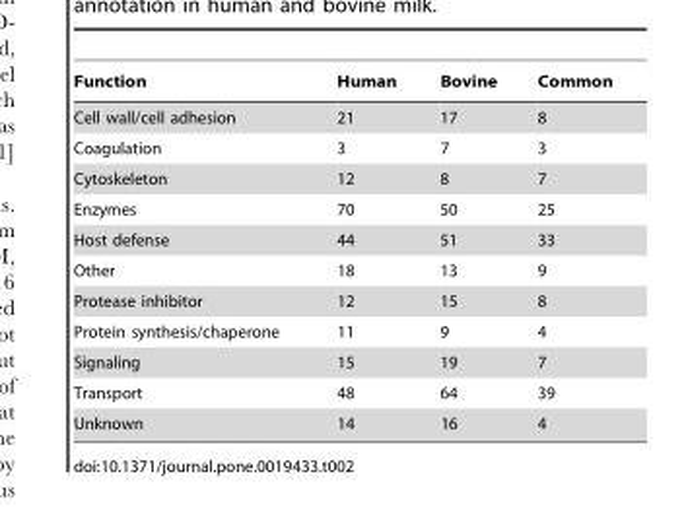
<table><thead><tr><td>Function</td><td>Human</td><td>Bovine</td><td>Common</td></tr></thead><tbody><tr><td>Cell wall/cell adhesion</td><td>21</td><td>17</td><td>8</td></tr><tr><td>Coagulation</td><td>3</td><td>7</td><td>3</td></tr><tr><td>Cytoskeleton</td><td>12</td><td>8</td><td>7</td></tr><tr><td>Enzymes</td><td>70</td><td>50</td><td>25</td></tr><tr><td>Host defense</td><td>44</td><td>51</td><td>33</td></tr><tr><td>Other</td><td>18</td><td>13</td><td>9</td></tr><tr><td>Protease inhibitor</td><td>12</td><td>15</td><td>8</td></tr><tr><td>Protein synthesis/chaperone</td><td>11</td><td>9</td><td>4</td></tr><tr><td>Signaling</td><td>15</td><td>19</td><td>7</td></tr><tr><td>Transport</td><td>48</td><td>64</td><td>39</td></tr><tr><td>Unknown</td><td>14</td><td>16</td><td>4</td></tr></tbody></table>